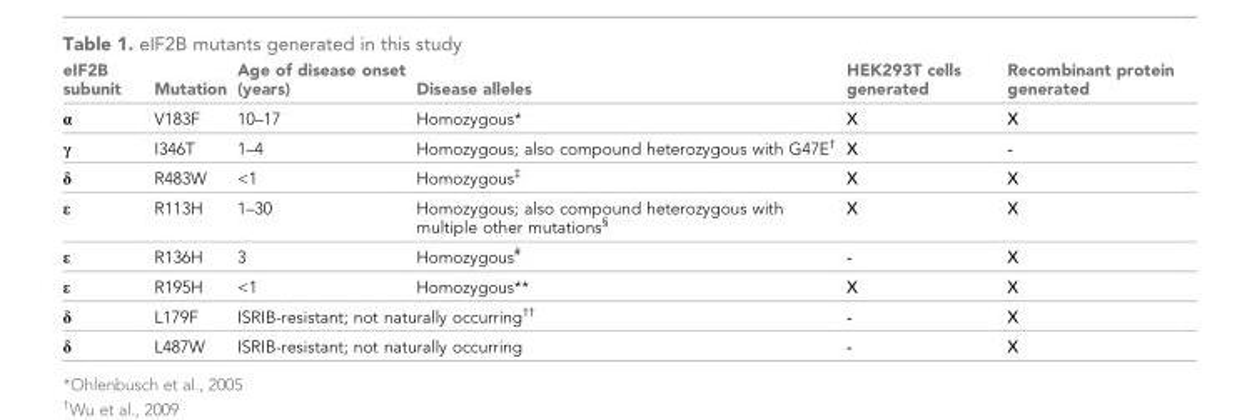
<table><thead><tr><td>eIF2B subunit</td><td>Mutation</td><td>Age of disease onset (years)</td><td>Disease alleles</td><td>HEK293T cells generated</td><td>Recombinant protein generated</td></tr></thead><tbody><tr><td>α</td><td>V183F</td><td>10–17</td><td>Homozygous*</td><td>X</td><td>X</td></tr><tr><td>γ</td><td>I346T</td><td>1–4</td><td>Homozygous; also compound heterozygous with G47E<sup>†</sup></td><td>X</td><td>-</td></tr><tr><td>δ</td><td>R483W</td><td>&lt;1</td><td>Homozygous<sup>‡</sup></td><td>X</td><td>X</td></tr><tr><td>ε</td><td>R113H</td><td>1–30</td><td>Homozygous; also compound heterozygous with multiple other mutations<sup>§</sup></td><td>X</td><td>X</td></tr><tr><td>ε</td><td>R136H</td><td>3</td><td>Homozygous<sup>#</sup></td><td>-</td><td>X</td></tr><tr><td>ε</td><td>R195H</td><td>&lt;1</td><td>Homozygous**</td><td>X</td><td>X</td></tr><tr><td>δ</td><td>L179F</td><td colspan="2">ISRIB-resistant; not naturally occurring<sup>††</sup></td><td>-</td><td>X</td></tr><tr><td>δ</td><td>L487W</td><td colspan="2">ISRIB-resistant; not naturally occurring</td><td>-</td><td>X</td></tr></tbody></table>